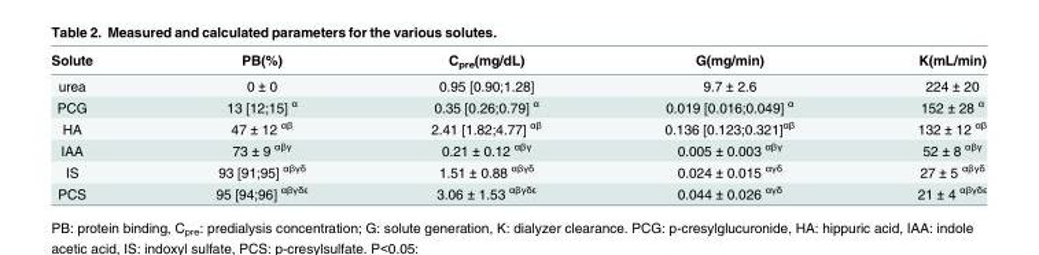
<table><thead><tr><td>Solute</td><td>PB(%)</td><td>C<sub>pre</sub>(mg/dL)</td><td>G(mg/min)</td><td>K(mL/min)</td></tr></thead><tbody><tr><td>urea</td><td>0 ± 0</td><td>0.95 [0.90;1.28]</td><td>9.7 ± 2.6</td><td>224 ± 20</td></tr><tr><td>PCG</td><td>13 [12;15] <sup>α</sup></td><td>0.35 [0.26;0.79] <sup>α</sup></td><td>0.019 [0.016;0.049] <sup>α</sup></td><td>152 ± 28 <sup>α</sup></td></tr><tr><td>HA</td><td>47 ± 12 <sup>αβ</sup></td><td>2.41 [1.82;4.77] <sup>αβ</sup></td><td>0.136 [0.123;0.321]<sup>αβ</sup></td><td>132 ± 12 <sup>αβ</sup></td></tr><tr><td>IAA</td><td>73 ± 9 <sup>αβγ</sup></td><td>0.21 ± 0.12 <sup>αβγ</sup></td><td>0.005 ± 0.003 <sup>αβγ</sup></td><td>52 ± 8 <sup>αβγ</sup></td></tr><tr><td>IS</td><td>93 [91;95] <sup>αβγδ</sup></td><td>1.51 ± 0.88 <sup>αβγδ</sup></td><td>0.024 ± 0.015 <sup>αγδ</sup></td><td>27 ± 5 <sup>αβγδ</sup></td></tr><tr><td>PCS</td><td>95 [94;96] <sup>αβγδε</sup></td><td>3.06 ± 1.53 <sup>αβγδε</sup></td><td>0.044 ± 0.026 <sup>αγδ</sup></td><td>21 ± 4 <sup>αβγδε</sup></td></tr></tbody></table>